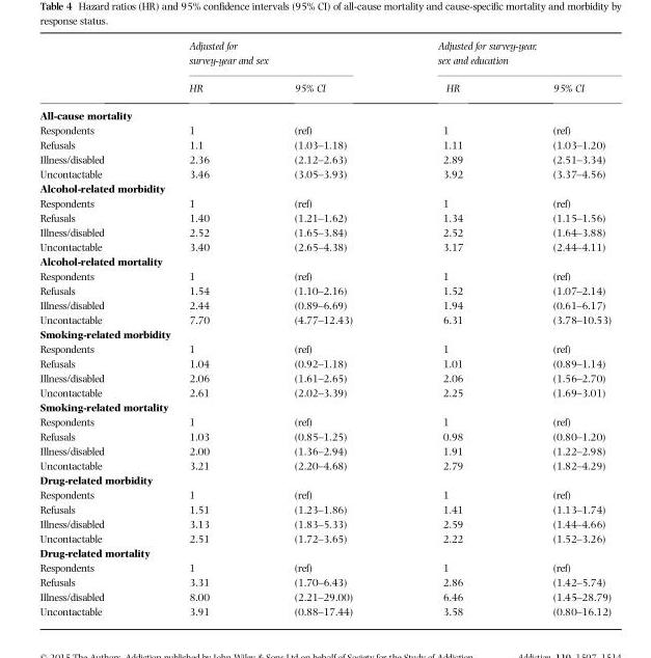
<table><thead><tr><td rowspan="2"></td><td colspan="2">Adjusted for survey-year and sex</td><td colspan="2">Adjusted for survey-year, sex and education</td></tr><tr><td>HR</td><td>95% CI</td><td>HR</td><td>95% CI</td></tr></thead><tbody><tr><td colspan="5">All-cause mortality</td></tr><tr><td>Respondents</td><td>1</td><td>(ref)</td><td>1</td><td>(ref)</td></tr><tr><td>Refusals</td><td>1.1</td><td>(1.03–1.18)</td><td>1.11</td><td>(1.03–1.20)</td></tr><tr><td>Illness/disabled</td><td>2.36</td><td>(2.12–2.63)</td><td>2.89</td><td>(2.51–3.34)</td></tr><tr><td>Uncontactable</td><td>3.46</td><td>(3.05–3.93)</td><td>3.92</td><td>(3.37–4.56)</td></tr><tr><td colspan="5">Alcohol-related morbidity</td></tr><tr><td>Respondents</td><td>1</td><td>(ref)</td><td>1</td><td>(ref)</td></tr><tr><td>Refusals</td><td>1.40</td><td>(1.21–1.62)</td><td>1.34</td><td>(1.15–1.56)</td></tr><tr><td>Illness/disabled</td><td>2.52</td><td>(1.65–3.84)</td><td>2.52</td><td>(1.64–3.88)</td></tr><tr><td>Uncontactable</td><td>3.40</td><td>(2.65–4.38)</td><td>3.17</td><td>(2.44–4.11)</td></tr><tr><td colspan="5">Alcohol-related mortality</td></tr><tr><td>Respondents</td><td>1</td><td>(ref)</td><td>1</td><td>(ref)</td></tr><tr><td>Refusals</td><td>1.54</td><td>(1.10–2.16)</td><td>1.52</td><td>(1.07–2.14)</td></tr><tr><td>Illness/disabled</td><td>2.44</td><td>(0.89–6.69)</td><td>1.94</td><td>(0.61–6.17)</td></tr><tr><td>Uncontactable</td><td>7.70</td><td>(4.77–12.43)</td><td>6.31</td><td>(3.78–10.53)</td></tr><tr><td colspan="5">Smoking-related morbidity</td></tr><tr><td>Respondents</td><td>1</td><td>(ref)</td><td>1</td><td>(ref)</td></tr><tr><td>Refusals</td><td>1.04</td><td>(0.92–1.18)</td><td>1.01</td><td>(0.89–1.14)</td></tr><tr><td>Illness/disabled</td><td>2.06</td><td>(1.61–2.65)</td><td>2.06</td><td>(1.56–2.70)</td></tr><tr><td>Uncontactable</td><td>2.61</td><td>(2.02–3.39)</td><td>2.25</td><td>(1.69–3.01)</td></tr><tr><td colspan="5">Smoking-related mortality</td></tr><tr><td>Respondents</td><td>1</td><td>(ref)</td><td>1</td><td>(ref)</td></tr><tr><td>Refusals</td><td>1.03</td><td>(0.85–1.25)</td><td>0.98</td><td>(0.80–1.20)</td></tr><tr><td>Illness/disabled</td><td>2.00</td><td>(1.36–2.94)</td><td>1.91</td><td>(1.22–2.98)</td></tr><tr><td>Uncontactable</td><td>3.21</td><td>(2.20–4.68)</td><td>2.79</td><td>(1.82–4.29)</td></tr><tr><td colspan="5">Drug-related morbidity</td></tr><tr><td>Respondents</td><td>1</td><td>(ref)</td><td>1</td><td>(ref)</td></tr><tr><td>Refusals</td><td>1.51</td><td>(1.23–1.86)</td><td>1.41</td><td>(1.13–1.74)</td></tr><tr><td>Illness/disabled</td><td>3.13</td><td>(1.83–5.33)</td><td>2.59</td><td>(1.44–4.66)</td></tr><tr><td>Uncontactable</td><td>2.51</td><td>(1.72–3.65)</td><td>2.22</td><td>(1.52–3.26)</td></tr><tr><td colspan="5">Drug-related mortality</td></tr><tr><td>Respondents</td><td>1</td><td>(ref)</td><td>1</td><td>(ref)</td></tr><tr><td>Refusals</td><td>3.31</td><td>(1.70–6.43)</td><td>2.86</td><td>(1.42–5.74)</td></tr><tr><td>Illness/disabled</td><td>8.00</td><td>(2.21–29.00)</td><td>6.46</td><td>(1.45–28.79)</td></tr><tr><td>Uncontactable</td><td>3.91</td><td>(0.88–17.44)</td><td>3.58</td><td>(0.80–16.12)</td></tr></tbody></table>